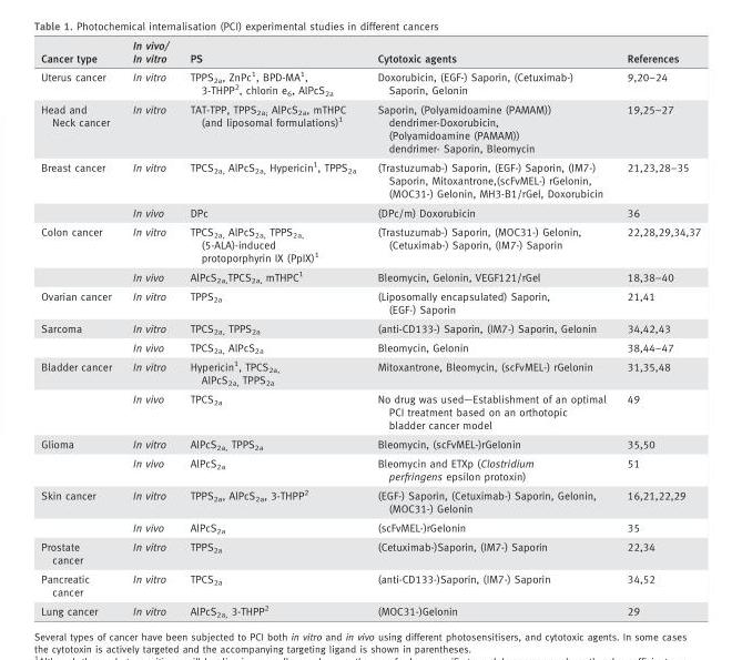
<table><thead><tr><td>Cancer type</td><td>In vivo/ In vitro</td><td>PS</td><td>Cytotoxic agents</td><td>References</td></tr></thead><tbody><tr><td>Uterus cancer</td><td>In vitro</td><td>TPPS<sub>2a</sub>, ZnPc<sup>1</sup>, BPD-MA<sup>1</sup>, 3-THPP<sup>2</sup>, chlorin e<sub>6</sub>, AlPcS<sub>2a</sub></td><td>Doxorubicin, (EGF-) Saporin, (Cetuximab-) Saporin, Gelonin</td><td>9,20–24</td></tr><tr><td>Head and Neck cancer</td><td>In vitro</td><td>TAT-TPP, TPPS<sub>2a;</sub> AlPcS<sub>2a</sub>, mTHPC (and liposomal formulations)<sup>1</sup></td><td>Saporin, (Polyamidoamine (PAMAM)) dendrimer-Doxorubicin, (Polyamidoamine (PAMAM)) dendrimer- Saporin, Bleomycin</td><td>19,25–27</td></tr><tr><td rowspan="2">Breast cancer</td><td>In vitro</td><td>TPCS<sub>2a,</sub> AlPcS<sub>2a,</sub> Hypericin<sup>1</sup>, TPPS<sub>2a</sub></td><td>(Trastuzumab-) Saporin, (EGF-) Saporin, (IM7-) Saporin, Mitoxantrone,(scFvMEL-) rGelonin, (MOC31-) Gelonin, MH3-B1/rGel, Doxorubicin</td><td>21,23,28–35</td></tr><tr><td>In vivo</td><td>DPc</td><td>(DPc/m) Doxorubicin</td><td>36</td></tr><tr><td rowspan="2">Colon cancer</td><td>In vitro</td><td>TPCS<sub>2a,</sub> AlPcS<sub>2a,</sub> TPPS<sub>2a,</sub> (5-ALA)-induced protoporphyrin IX (PpIX)<sup>1</sup></td><td>(Trastuzumab-) Saporin, (MOC31-) Gelonin, (Cetuximab-) Saporin, (IM7-) Saporin</td><td>22,28,29,34,37</td></tr><tr><td>In vivo</td><td>AlPcS<sub>2a,</sub>TPCS<sub>2a,</sub> mTHPC<sup>1</sup></td><td>Bleomycin, Gelonin, VEGF121/rGel</td><td>18,38–40</td></tr><tr><td>Ovarian cancer</td><td>In vitro</td><td>TPPS<sub>2a</sub></td><td>(Liposomally encapsulated) Saporin, (EGF-) Saporin</td><td>21,41</td></tr><tr><td rowspan="2">Sarcoma</td><td>In vitro</td><td>TPCS<sub>2a,</sub> TPPS<sub>2a</sub></td><td>(anti-CD133-) Saporin, (IM7-) Saporin, Gelonin</td><td>34,42,43</td></tr><tr><td>In vivo</td><td>TPCS<sub>2a,</sub> AlPcS<sub>2a</sub></td><td>Bleomycin, Gelonin</td><td>38,44–47</td></tr><tr><td rowspan="2">Bladder cancer</td><td>In vitro</td><td>Hypericin<sup>1</sup>, TPCS<sub>2a,</sub> AlPcS<sub>2a,</sub> TPPS<sub>2a</sub></td><td>Mitoxantrone, Bleomycin, (scFvMEL-) rGelonin</td><td>31,35,48</td></tr><tr><td>In vivo</td><td>TPCS<sub>2a</sub></td><td>No drug was used—Establishment of an optimal PCI treatment based on an orthotopic bladder cancer model</td><td>49</td></tr><tr><td rowspan="2">Glioma</td><td>In vitro</td><td>AlPcS<sub>2a,</sub> TPPS<sub>2a</sub></td><td>Bleomycin, (scFvMEL-)rGelonin</td><td>35,50</td></tr><tr><td>In vivo</td><td>AlPcS<sub>2a</sub></td><td>Bleomycin and ETXp (Clostridium perfringens epsilon protoxin)</td><td>51</td></tr><tr><td rowspan="2">Skin cancer</td><td>In vitro</td><td>TPPS<sub>2a</sub>, AlPcS<sub>2a</sub>, 3-THPP<sup>2</sup></td><td>(EGF-) Saporin, (Cetuximab-) Saporin, Gelonin, (MOC31-) Gelonin</td><td>16,21,22,29</td></tr><tr><td>In vivo</td><td>AlPcS<sub>2a</sub></td><td>(scFvMEL-)rGelonin</td><td>35</td></tr><tr><td>Prostate cancer</td><td>In vitro</td><td>TPPS<sub>2a</sub></td><td>(Cetuximab-)Saporin, (IM7-) Saporin</td><td>22,34</td></tr><tr><td>Pancreatic cancer</td><td>In vitro</td><td>TPCS<sub>2a</sub></td><td>(anti-CD133-)Saporin, (IM7-) Saporin</td><td>34,52</td></tr><tr><td>Lung cancer</td><td>In vitro</td><td>AlPcS<sub>2a,</sub> 3-THPP<sup>2</sup></td><td>(MOC31-)Gelonin</td><td>29</td></tr></tbody></table>